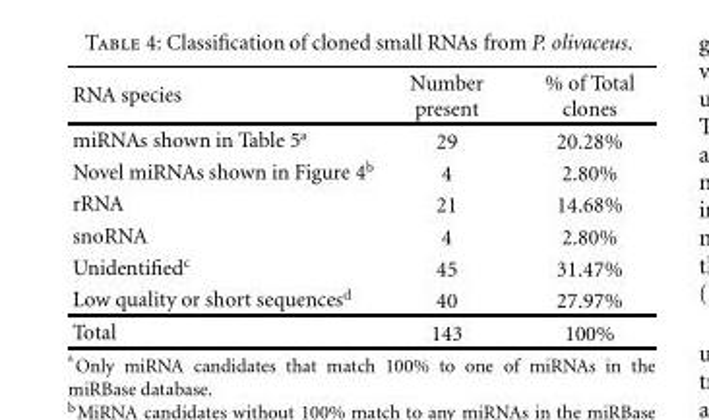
<table><thead><tr><td>RNA species</td><td>Number present</td><td>% of Total clones</td></tr></thead><tbody><tr><td>miRNAs shown in Table 5<sup>a</sup></td><td>29</td><td>20.28%</td></tr><tr><td>Novel miRNAs shown in Figure 4<sup>b</sup></td><td>4</td><td>2.80%</td></tr><tr><td>rRNA</td><td>21</td><td>14.68%</td></tr><tr><td>snoRNA</td><td>4</td><td>2.80%</td></tr><tr><td>Unidentified<sup>c</sup></td><td>45</td><td>31.47%</td></tr><tr><td>Low quality or short sequences<sup>d</sup></td><td>40</td><td>27.97%</td></tr><tr><td>Total</td><td>143</td><td>100%</td></tr></tbody></table>